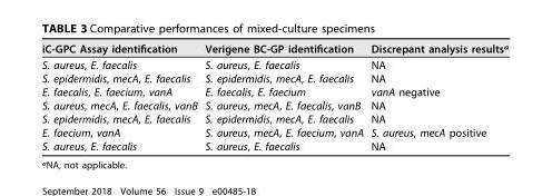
<table><thead><tr><td>iC-GPC Assay identification</td><td>Verigene BC-GP identification</td><td>Discrepant analysis results<sup>a</sup></td></tr></thead><tbody><tr><td>S. aureus, E. faecalis</td><td>S. aureus, E. faecalis</td><td>NA</td></tr><tr><td>S. epidermidis, mecA, E. faecalis</td><td>S. epidermidis, mecA, E. faecalis</td><td>NA</td></tr><tr><td>E. faecalis, E. faecium, vanA</td><td>E. faecalis, E. faecium</td><td>vanA negative</td></tr><tr><td>S. aureus, mecA, E. faecalis, vanB</td><td>S. aureus, mecA, E. faecalis, vanB</td><td>NA</td></tr><tr><td>S. epidermidis, mecA, E. faecalis</td><td>S. epidermidis, mecA, E. faecalis</td><td>NA</td></tr><tr><td>E. faecium, vanA</td><td>S. aureus, mecA, E. faecium, vanA</td><td>S. aureus, mecA positive</td></tr><tr><td>S. aureus, E. faecalis</td><td>S. aureus, E. faecalis</td><td>NA</td></tr></tbody></table>